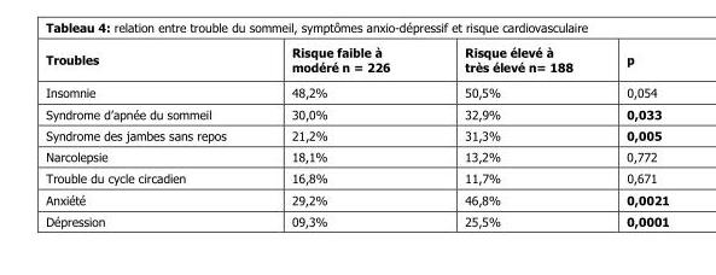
<table><thead><tr><td>Troubles</td><td>Risque faible à modéré n = 226</td><td>Risque élevé à très élevé n= 188</td><td>p</td></tr></thead><tbody><tr><td>Insomnie</td><td>48,2%</td><td>50,5%</td><td>0,054</td></tr><tr><td>Syndrome d’apnée du sommeil</td><td>30,0%</td><td>32,9%</td><td>0,033</td></tr><tr><td>Syndrome des jambes sans repos</td><td>21,2%</td><td>31,3%</td><td>0,005</td></tr><tr><td>Narcolepsie</td><td>18,1%</td><td>13,2%</td><td>0,772</td></tr><tr><td>Trouble du cycle circadien</td><td>16,8%</td><td>11,7%</td><td>0,671</td></tr><tr><td>Anxiété</td><td>29,2%</td><td>46,8%</td><td>0,0021</td></tr><tr><td>Dépression</td><td>09,3%</td><td>25,5%</td><td>0,0001</td></tr></tbody></table>